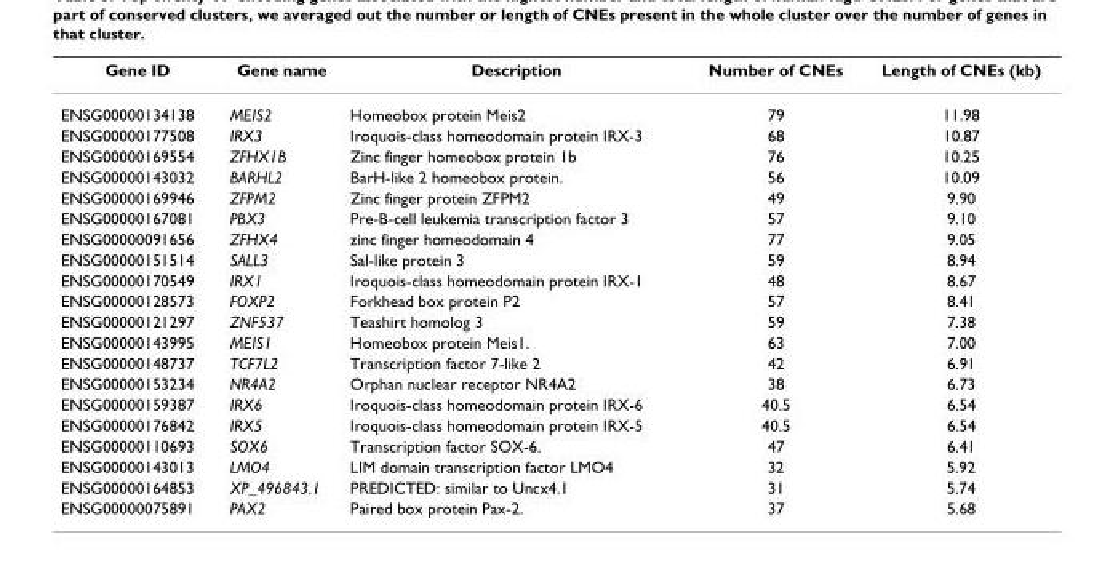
<table><thead><tr><td>Gene ID</td><td>Gene name</td><td>Description</td><td>Number of CNEs</td><td>Length of CNEs (kb)</td></tr></thead><tbody><tr><td>ENSG00000134138</td><td>MEIS2</td><td>Homeobox protein Meis2</td><td>79</td><td>11.98</td></tr><tr><td>ENSG00000177508</td><td>IRX3</td><td>Iroquois-class homeodomain protein IRX-3</td><td>68</td><td>10.87</td></tr><tr><td>ENSG00000169554</td><td>ZFHX1B</td><td>Zinc finger homeobox protein 1b</td><td>76</td><td>10.25</td></tr><tr><td>ENSG00000143032</td><td>BARHL2</td><td>BarH-like 2 homeobox protein.</td><td>56</td><td>10.09</td></tr><tr><td>ENSG00000169946</td><td>ZFPM2</td><td>Zinc finger protein ZFPM2</td><td>49</td><td>9.90</td></tr><tr><td>ENSG00000167081</td><td>PBX3</td><td>Pre-B-cell leukemia transcription factor 3</td><td>57</td><td>9.10</td></tr><tr><td>ENSG00000091656</td><td>ZFHX4</td><td>zinc finger homeodomain 4</td><td>77</td><td>9.05</td></tr><tr><td>ENSG00000151514</td><td>SALL3</td><td>Sal-like protein 3</td><td>59</td><td>8.94</td></tr><tr><td>ENSG00000170549</td><td>IRX1</td><td>Iroquois-class homeodomain protein IRX-1</td><td>48</td><td>8.67</td></tr><tr><td>ENSG00000128573</td><td>FOXP2</td><td>Forkhead box protein P2</td><td>57</td><td>8.41</td></tr><tr><td>ENSG00000121297</td><td>ZNF537</td><td>Teashirt homolog 3</td><td>59</td><td>7.38</td></tr><tr><td>ENSG00000143995</td><td>MEIS1</td><td>Homeobox protein Meis1.</td><td>63</td><td>7.00</td></tr><tr><td>ENSG00000148737</td><td>TCF7L2</td><td>Transcription factor 7-like 2</td><td>42</td><td>6.91</td></tr><tr><td>ENSG00000153234</td><td>NR4A2</td><td>Orphan nuclear receptor NR4A2</td><td>38</td><td>6.73</td></tr><tr><td>ENSG00000159387</td><td>IRX6</td><td>Iroquois-class homeodomain protein IRX-6</td><td>40.5</td><td>6.54</td></tr><tr><td>ENSG00000176842</td><td>IRX5</td><td>Iroquois-class homeodomain protein IRX-5</td><td>40.5</td><td>6.54</td></tr><tr><td>ENSG00000110693</td><td>SOX6</td><td>Transcription factor SOX-6.</td><td>47</td><td>6.41</td></tr><tr><td>ENSG00000143013</td><td>LMO4</td><td>LIM domain transcription factor LMO4</td><td>32</td><td>5.92</td></tr><tr><td>ENSG00000164853</td><td>XP_496843.1</td><td>PREDICTED: similar to Uncx4.1</td><td>31</td><td>5.74</td></tr><tr><td>ENSG00000075891</td><td>PAX2</td><td>Paired box protein Pax-2.</td><td>37</td><td>5.68</td></tr></tbody></table>